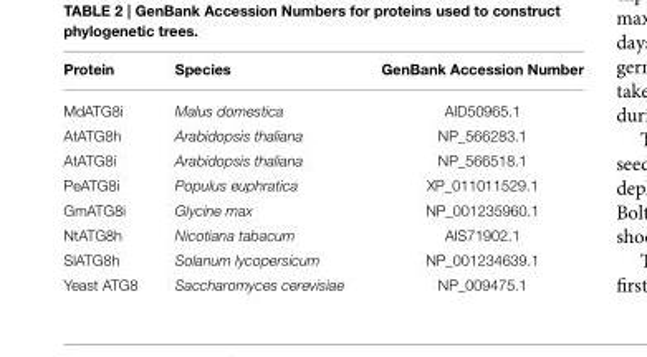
<table><thead><tr><td>Protein</td><td>Species</td><td>GenBank Accession Number</td></tr></thead><tbody><tr><td>MdATG8i</td><td>Malus domestica</td><td>AID50965.1</td></tr><tr><td>AtATG8h</td><td>Arabidopsis thaliana</td><td>NP_566283.1</td></tr><tr><td>AtATG8i</td><td>Arabidopsis thaliana</td><td>NP_566518.1</td></tr><tr><td>PeATG8i</td><td>Populus euphratica</td><td>XP_011011529.1</td></tr><tr><td>GmATG8i</td><td>Glycine max</td><td>NP_001235960.1</td></tr><tr><td>NtATG8h</td><td>Nicotiana tabacum</td><td>AIS71902.1</td></tr><tr><td>SlATG8h</td><td>Solanum lycopersicum</td><td>NP_001234639.1</td></tr><tr><td>Yeast ATG8</td><td>Saccharomyces cerevisiae</td><td>NP_009475.1</td></tr></tbody></table>